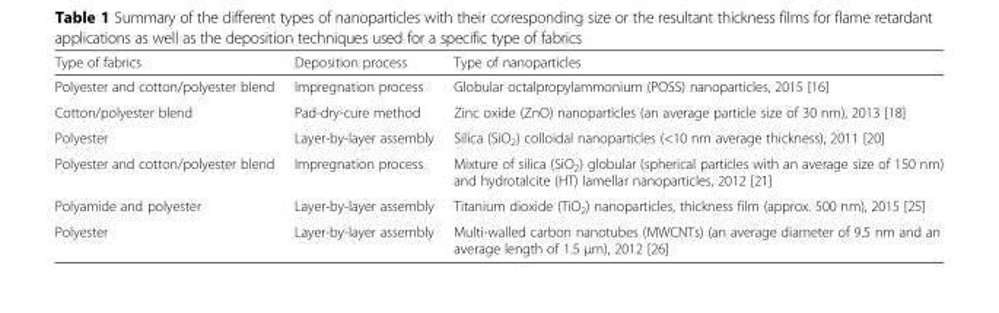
<table><thead><tr><td>Type of fabrics</td><td>Deposition process</td><td>Type of nanoparticles</td></tr></thead><tbody><tr><td>Polyester and cotton/polyester blend</td><td>Impregnation process</td><td>Globular octalpropylammonium (POSS) nanoparticles, 2015 [16]</td></tr><tr><td>Cotton/polyester blend</td><td>Pad-dry-cure method</td><td>Zinc oxide (ZnO) nanoparticles (an average particle size of 30 nm), 2013 [18]</td></tr><tr><td>Polyester</td><td>Layer-by-layer assembly</td><td>Silica (SiO<sub>2</sub>) colloidal nanoparticles (&lt;10 nm average thickness), 2011 [20]</td></tr><tr><td>Polyester and cotton/polyester blend</td><td>Impregnation process</td><td>Mixture of silica (SiO<sub>2</sub>) globular (spherical particles with an average size of 150 nm) and hydrotalcite (HT) lamellar nanoparticles, 2012 [21]</td></tr><tr><td>Polyamide and polyester</td><td>Layer-by-layer assembly</td><td>Titanium dioxide (TiO<sub>2</sub>) nanoparticles, thickness film (approx. 500 nm), 2015 [25]</td></tr><tr><td>Polyester</td><td>Layer-by-layer assembly</td><td>Multi-walled carbon nanotubes (MWCNTs) (an average diameter of 9.5 nm and an average length of 1.5 μm), 2012 [26]</td></tr></tbody></table>